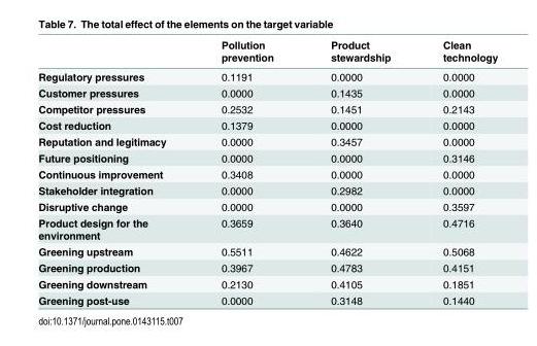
<table><thead><tr><td></td><td>Pollution prevention</td><td>Product stewardship</td><td>Clean technology</td></tr></thead><tbody><tr><td>Regulatory pressures</td><td>0.1191</td><td>0.0000</td><td>0.0000</td></tr><tr><td>Customer pressures</td><td>0.0000</td><td>0.1435</td><td>0.0000</td></tr><tr><td>Competitor pressures</td><td>0.2532</td><td>0.1451</td><td>0.2143</td></tr><tr><td>Cost reduction</td><td>0.1379</td><td>0.0000</td><td>0.0000</td></tr><tr><td>Reputation and legitimacy</td><td>0.0000</td><td>0.3457</td><td>0.0000</td></tr><tr><td>Future positioning</td><td>0.0000</td><td>0.0000</td><td>0.3146</td></tr><tr><td>Continuous improvement</td><td>0.3408</td><td>0.0000</td><td>0.0000</td></tr><tr><td>Stakeholder integration</td><td>0.0000</td><td>0.2982</td><td>0.0000</td></tr><tr><td>Disruptive change</td><td>0.0000</td><td>0.0000</td><td>0.3597</td></tr><tr><td>Product design for the environment</td><td>0.3659</td><td>0.3640</td><td>0.4716</td></tr><tr><td>Greening upstream</td><td>0.5511</td><td>0.4622</td><td>0.5068</td></tr><tr><td>Greening production</td><td>0.3967</td><td>0.4783</td><td>0.4151</td></tr><tr><td>Greening downstream</td><td>0.2130</td><td>0.4105</td><td>0.1851</td></tr><tr><td>Greening post-use</td><td>0.0000</td><td>0.3148</td><td>0.1440</td></tr></tbody></table>